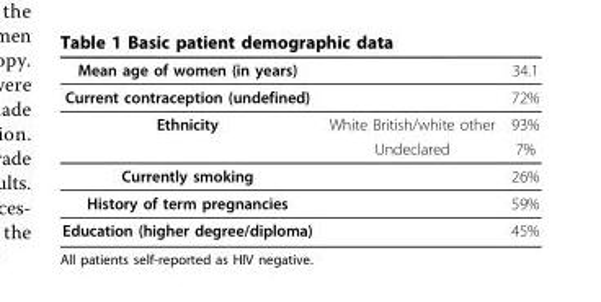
<table><thead><tr><td>Mean age of women (in years)</td><td></td><td>34.1</td></tr></thead><tbody><tr><td>Current contraception (undefined)</td><td></td><td>72%</td></tr><tr><td rowspan="2">Ethnicity</td><td>White British/white other</td><td>93%</td></tr><tr><td>Undeclared</td><td>7%</td></tr><tr><td>Currently smoking</td><td></td><td>26%</td></tr><tr><td>History of term pregnancies</td><td></td><td>59%</td></tr><tr><td>Education (higher degree/diploma)</td><td></td><td>45%</td></tr></tbody></table>